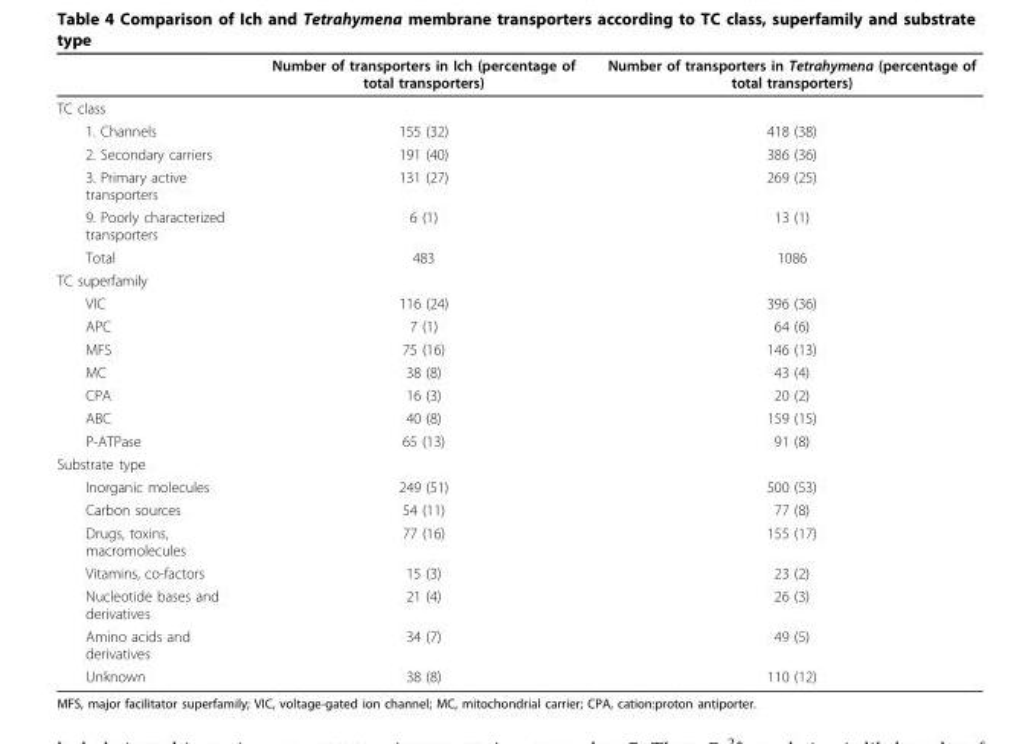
<table><thead><tr><td></td><td>Number of transporters in Ich (percentage of total transporters)</td><td>Number of transporters in Tetrahymena (percentage of total transporters)</td></tr></thead><tbody><tr><td colspan="3">TC class</td></tr><tr><td>1. Channels</td><td>155 (32)</td><td>418 (38)</td></tr><tr><td>2. Secondary carriers</td><td>191 (40)</td><td>386 (36)</td></tr><tr><td>3. Primary active transporters</td><td>131 (27)</td><td>269 (25)</td></tr><tr><td>9. Poorly characterized transporters</td><td>6 (1)</td><td>13 (1)</td></tr><tr><td>Total</td><td>483</td><td>1086</td></tr><tr><td colspan="3">TC superfamily</td></tr><tr><td>VIC</td><td>116 (24)</td><td>396 (36)</td></tr><tr><td>APC</td><td>7 (1)</td><td>64 (6)</td></tr><tr><td>MFS</td><td>75 (16)</td><td>146 (13)</td></tr><tr><td>MC</td><td>38 (8)</td><td>43 (4)</td></tr><tr><td>CPA</td><td>16 (3)</td><td>20 (2)</td></tr><tr><td>ABC</td><td>40 (8)</td><td>159 (15)</td></tr><tr><td>P-ATPase</td><td>65 (13)</td><td>91 (8)</td></tr><tr><td colspan="3">Substrate type</td></tr><tr><td>Inorganic molecules</td><td>249 (51)</td><td>500 (53)</td></tr><tr><td>Carbon sources</td><td>54 (11)</td><td>77 (8)</td></tr><tr><td>Drugs, toxins, macromolecules</td><td>77 (16)</td><td>155 (17)</td></tr><tr><td>Vitamins, co-factors</td><td>15 (3)</td><td>23 (2)</td></tr><tr><td>Nucleotide bases and derivatives</td><td>21 (4)</td><td>26 (3)</td></tr><tr><td>Amino acids and derivatives</td><td>34 (7)</td><td>49 (5)</td></tr><tr><td>Unknown</td><td>38 (8)</td><td>110 (12)</td></tr></tbody></table>